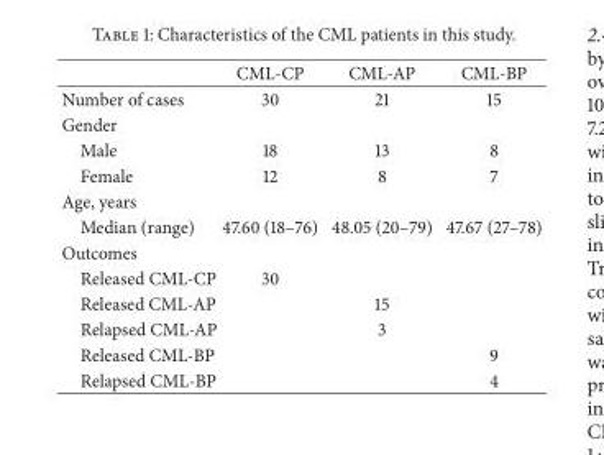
<table><thead><tr><td></td><td>CML-CP</td><td>CML-AP</td><td>CML-BP</td></tr></thead><tbody><tr><td>Number of cases</td><td>30</td><td>21</td><td>15</td></tr><tr><td colspan="4">Gender</td></tr><tr><td>Male</td><td>18</td><td>13</td><td>8</td></tr><tr><td>Female</td><td>12</td><td>8</td><td>7</td></tr><tr><td colspan="4">Age, years</td></tr><tr><td>Median (range)</td><td>47.60 (18–76)</td><td>48.05 (20–79)</td><td>47.67 (27–78)</td></tr><tr><td colspan="4">Outcomes</td></tr><tr><td>Released CML-CP</td><td>30</td><td></td><td></td></tr><tr><td>Released CML-AP</td><td></td><td>15</td><td></td></tr><tr><td>Relapsed CML-AP</td><td></td><td>3</td><td></td></tr><tr><td>Released CML-BP</td><td></td><td></td><td>9</td></tr><tr><td>Relapsed CML-BP</td><td></td><td></td><td>4</td></tr></tbody></table>